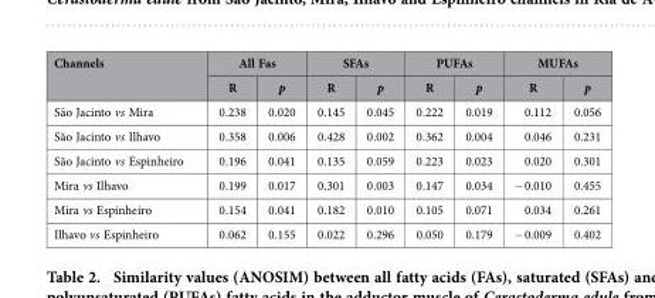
<table><thead><tr><td rowspan="2">Channels</td><td colspan="2">All Fas</td><td colspan="2">SFAs</td><td colspan="2">PUFAs</td><td colspan="2">MUFAs</td></tr><tr><td>R</td><td>p</td><td>R</td><td>p</td><td>R</td><td>p</td><td>R</td><td>p</td></tr></thead><tbody><tr><td>São Jacinto vs Mira</td><td>0.238</td><td>0.020</td><td>0.145</td><td>0.045</td><td>0.222</td><td>0.019</td><td>0.112</td><td>0.056</td></tr><tr><td>São Jacinto vs Ilhavo</td><td>0.358</td><td>0.006</td><td>0.428</td><td>0.002</td><td>0.362</td><td>0.004</td><td>0.046</td><td>0.231</td></tr><tr><td>São Jacinto vs Espinheiro</td><td>0.196</td><td>0.041</td><td>0.135</td><td>0.059</td><td>0.223</td><td>0.023</td><td>0.020</td><td>0.301</td></tr><tr><td>Mira vs Ilhavo</td><td>0.199</td><td>0.017</td><td>0.301</td><td>0.003</td><td>0.147</td><td>0.034</td><td>− 0.010</td><td>0.455</td></tr><tr><td>Mira vs Espinheiro</td><td>0.154</td><td>0.041</td><td>0.182</td><td>0.010</td><td>0.105</td><td>0.071</td><td>0.034</td><td>0.261</td></tr><tr><td>Ilhavo vs Espinheiro</td><td>0.062</td><td>0.155</td><td>0.022</td><td>0.296</td><td>0.050</td><td>0.179</td><td>− 0.009</td><td>0.402</td></tr></tbody></table>